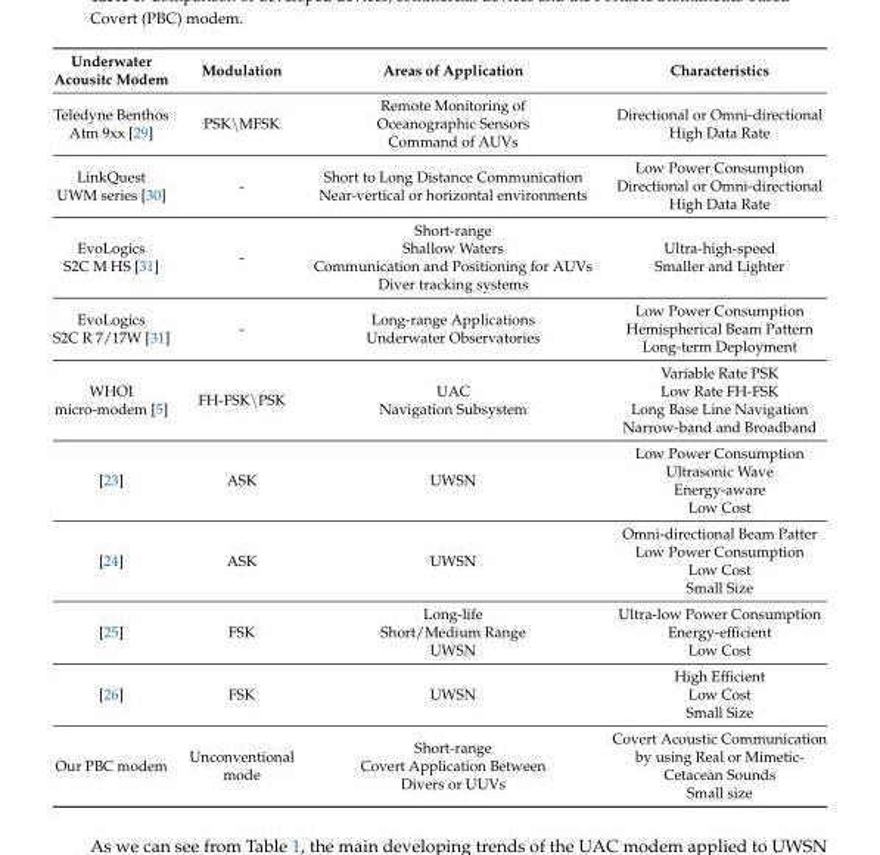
<table><thead><tr><td>Underwater Acousitc Modem</td><td>Modulation</td><td>Areas of Application</td><td>Characteristics</td></tr></thead><tbody><tr><td>Teledyne Benthos Atm 9xx [29]</td><td>PSK\MFSK</td><td>Remote Monitoring of Oceanographic Sensors Command of AUVs</td><td>Directional or Omni-directional High Data Rate</td></tr><tr><td>LinkQuest UWM series [30]</td><td>-</td><td>Short to Long Distance Communication Near-vertical or horizontal environments</td><td>Low Power Consumption Directional or Omni-directional High Data Rate</td></tr><tr><td>EvoLogics S2C M HS [31]</td><td>-</td><td>Short-range Shallow Waters Communication and Positioning for AUVs Diver tracking systems</td><td>Ultra-high-speed Smaller and Lighter</td></tr><tr><td>EvoLogics S2C R 7/17W [31]</td><td>-</td><td>Long-range Applications Underwater Observatories</td><td>Low Power Consumption Hemispherical Beam Pattern Long-term Deployment</td></tr><tr><td>WHOI micro-modem [5]</td><td>FH-FSK\PSK</td><td>UAC Navigation Subsystem</td><td>Variable Rate PSK Low Rate FH-FSK Long Base Line Navigation Narrow-band and Broadband</td></tr><tr><td>[23]</td><td>ASK</td><td>UWSN</td><td>Low Power Consumption Ultrasonic Wave Energy-aware Low Cost</td></tr><tr><td>[24]</td><td>ASK</td><td>UWSN</td><td>Omni-directional Beam Patter Low Power Consumption Low Cost Small Size</td></tr><tr><td>[25]</td><td>FSK</td><td>Long-life Short/Medium Range UWSN</td><td>Ultra-low Power Consumption Energy-efficient Low Cost</td></tr><tr><td>[26]</td><td>FSK</td><td>UWSN</td><td>High Efficient Low Cost Small Size</td></tr><tr><td>Our PBC modem</td><td>Unconventional mode</td><td>Short-range Covert Application Between Divers or UUVs</td><td>Covert Acoustic Communication by using Real or Mimetic- Cetacean Sounds Small size</td></tr></tbody></table>